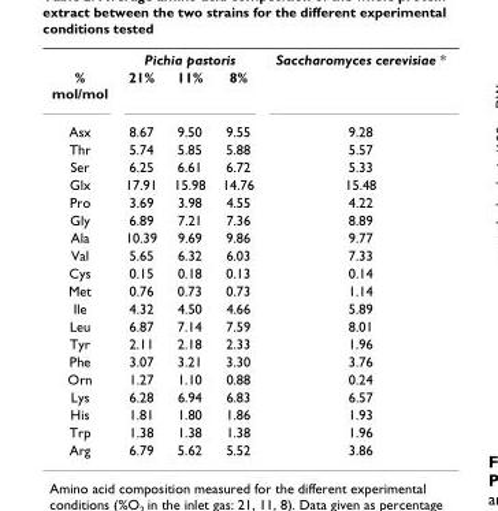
<table><thead><tr><td rowspan="2">% mol/mol</td><td colspan="3">Pichia pastoris</td><td rowspan="2">Saccharomyces cerevisiae *</td></tr><tr><td>21%</td><td>11%</td><td>8%</td></tr></thead><tbody><tr><td>Asx</td><td>8.67</td><td>9.50</td><td>9.55</td><td>9.28</td></tr><tr><td>Thr</td><td>5.74</td><td>5.85</td><td>5.88</td><td>5.57</td></tr><tr><td>Ser</td><td>6.25</td><td>6.61</td><td>6.72</td><td>5.33</td></tr><tr><td>Glx</td><td>17.91</td><td>15.98</td><td>14.76</td><td>15.48</td></tr><tr><td>Pro</td><td>3.69</td><td>3.98</td><td>4.55</td><td>4.22</td></tr><tr><td>Gly</td><td>6.89</td><td>7.21</td><td>7.36</td><td>8.89</td></tr><tr><td>Ala</td><td>10.39</td><td>9.69</td><td>9.86</td><td>9.77</td></tr><tr><td>Val</td><td>5.65</td><td>6.32</td><td>6.03</td><td>7.33</td></tr><tr><td>Cys</td><td>0.15</td><td>0.18</td><td>0.13</td><td>0.14</td></tr><tr><td>Met</td><td>0.76</td><td>0.73</td><td>0.73</td><td>1.14</td></tr><tr><td>Ile</td><td>4.32</td><td>4.50</td><td>4.66</td><td>5.89</td></tr><tr><td>Leu</td><td>6.87</td><td>7.14</td><td>7.59</td><td>8.01</td></tr><tr><td>Tyr</td><td>2.11</td><td>2.18</td><td>2.33</td><td>1.96</td></tr><tr><td>Phe</td><td>3.07</td><td>3.21</td><td>3.30</td><td>3.76</td></tr><tr><td>Orn</td><td>1.27</td><td>1.10</td><td>0.88</td><td>0.24</td></tr><tr><td>Lys</td><td>6.28</td><td>6.94</td><td>6.83</td><td>6.57</td></tr><tr><td>His</td><td>1.81</td><td>1.80</td><td>1.86</td><td>1.93</td></tr><tr><td>Trp</td><td>1.38</td><td>1.38</td><td>1.38</td><td>1.96</td></tr><tr><td>Arg</td><td>6.79</td><td>5.62</td><td>5.52</td><td>3.86</td></tr></tbody></table>